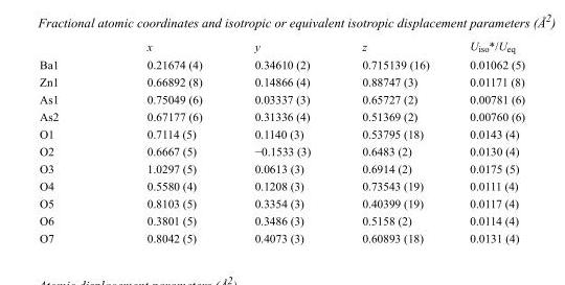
<table><thead><tr><td></td><td>x</td><td>y</td><td>z</td><td>U<sub>iso</sub>*/U<sub>eq</sub></td></tr></thead><tbody><tr><td>Ba1</td><td>0.21674 (4)</td><td>0.34610 (2)</td><td>0.715139 (16)</td><td>0.01062 (5)</td></tr><tr><td>Zn1</td><td>0.66892 (8)</td><td>0.14866 (4)</td><td>0.88747 (3)</td><td>0.01171 (8)</td></tr><tr><td>As1</td><td>0.75049 (6)</td><td>0.03337 (3)</td><td>0.65727 (2)</td><td>0.00781 (6)</td></tr><tr><td>As2</td><td>0.67177 (6)</td><td>0.31336 (4)</td><td>0.51369 (2)</td><td>0.00760 (6)</td></tr><tr><td>O1</td><td>0.7114 (5)</td><td>0.1140 (3)</td><td>0.53795 (18)</td><td>0.0143 (4)</td></tr><tr><td>O2</td><td>0.6667 (5)</td><td>−0.1533 (3)</td><td>0.6483 (2)</td><td>0.0130 (4)</td></tr><tr><td>O3</td><td>1.0297 (5)</td><td>0.0613 (3)</td><td>0.6914 (2)</td><td>0.0175 (5)</td></tr><tr><td>O4</td><td>0.5580 (4)</td><td>0.1208 (3)</td><td>0.73543 (19)</td><td>0.0111 (4)</td></tr><tr><td>O5</td><td>0.8103 (5)</td><td>0.3354 (3)</td><td>0.40399 (19)</td><td>0.0117 (4)</td></tr><tr><td>O6</td><td>0.3801 (5)</td><td>0.3486 (3)</td><td>0.5158 (2)</td><td>0.0114 (4)</td></tr><tr><td>O7</td><td>0.8042 (5)</td><td>0.4073 (3)</td><td>0.60893 (18)</td><td>0.0131 (4)</td></tr></tbody></table>